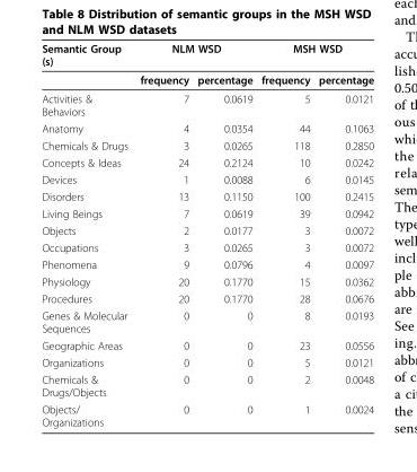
<table><thead><tr><td rowspan="2">Semantic Group (s)</td><td colspan="2">NLM WSD</td><td colspan="2">MSH WSD</td></tr><tr><td>frequency</td><td>percentage</td><td>frequency</td><td>percentage</td></tr></thead><tbody><tr><td>Activities &amp; Behaviors</td><td>7</td><td>0.0619</td><td>5</td><td>0.0121</td></tr><tr><td>Anatomy</td><td>4</td><td>0.0354</td><td>44</td><td>0.1063</td></tr><tr><td>Chemicals &amp; Drugs</td><td>3</td><td>0.0265</td><td>118</td><td>0.2850</td></tr><tr><td>Concepts &amp; Ideas</td><td>24</td><td>0.2124</td><td>10</td><td>0.0242</td></tr><tr><td>Devices</td><td>1</td><td>0.0088</td><td>6</td><td>0.0145</td></tr><tr><td>Disorders</td><td>13</td><td>0.1150</td><td>100</td><td>0.2415</td></tr><tr><td>Living Beings</td><td>7</td><td>0.0619</td><td>39</td><td>0.0942</td></tr><tr><td>Objects</td><td>2</td><td>0.0177</td><td>3</td><td>0.0072</td></tr><tr><td>Occupations</td><td>3</td><td>0.0265</td><td>3</td><td>0.0072</td></tr><tr><td>Phenomena</td><td>9</td><td>0.0796</td><td>4</td><td>0.0097</td></tr><tr><td>Physiology</td><td>20</td><td>0.1770</td><td>15</td><td>0.0362</td></tr><tr><td>Procedures</td><td>20</td><td>0.1770</td><td>28</td><td>0.0676</td></tr><tr><td>Genes &amp; Molecular Sequences</td><td>0</td><td>0</td><td>8</td><td>0.0193</td></tr><tr><td>Geographic Areas</td><td>0</td><td>0</td><td>23</td><td>0.0556</td></tr><tr><td>Organizations</td><td>0</td><td>0</td><td>5</td><td>0.0121</td></tr><tr><td>Chemicals &amp; Drugs/Objects</td><td>0</td><td>0</td><td>2</td><td>0.0048</td></tr><tr><td>Objects/ Organizations</td><td>0</td><td>0</td><td>1</td><td>0.0024</td></tr></tbody></table>